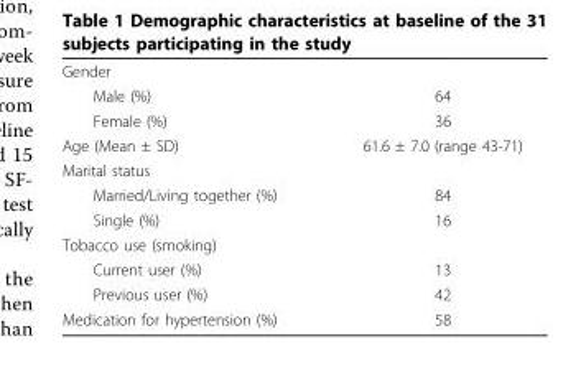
<table><tbody><tr><td colspan="2">Gender</td></tr><tr><td>Male (%)</td><td>64</td></tr><tr><td>Female (%)</td><td>36</td></tr><tr><td>Age (Mean ± SD)</td><td>61.6 ± 7.0 (range 43-71)</td></tr><tr><td colspan="2">Marital status</td></tr><tr><td>Married/Living together (%)</td><td>84</td></tr><tr><td>Single (%)</td><td>16</td></tr><tr><td colspan="2">Tobacco use (smoking)</td></tr><tr><td>Current user (%)</td><td>13</td></tr><tr><td>Previous user (%)</td><td>42</td></tr><tr><td>Medication for hypertension (%)</td><td>58</td></tr></tbody></table>